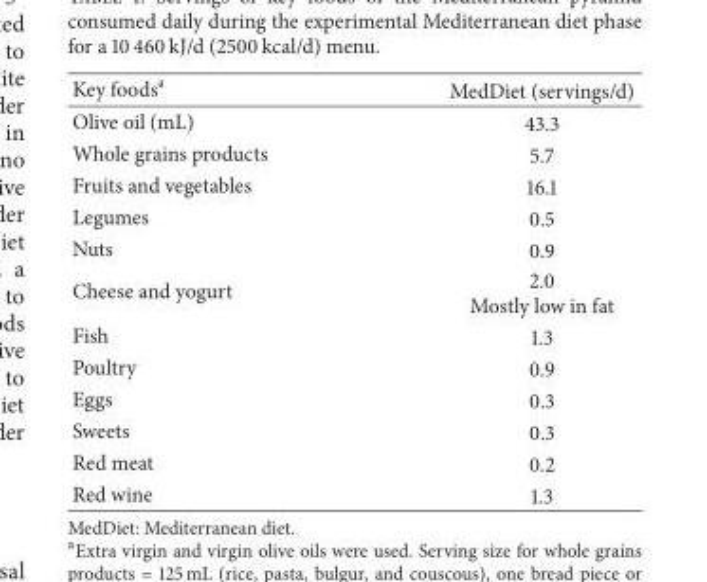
<table><thead><tr><td>Key foods<sup>a</sup></td><td>MedDiet (servings/d)</td></tr></thead><tbody><tr><td>Olive oil (mL)</td><td>43.3</td></tr><tr><td>Whole grains products</td><td>5.7</td></tr><tr><td>Fruits and vegetables</td><td>16.1</td></tr><tr><td>Legumes</td><td>0.5</td></tr><tr><td>Nuts</td><td>0.9</td></tr><tr><td>Cheese and yogurt</td><td>2.0 Mostly low in fat</td></tr><tr><td>Fish</td><td>1.3</td></tr><tr><td>Poultry</td><td>0.9</td></tr><tr><td>Eggs</td><td>0.3</td></tr><tr><td>Sweets</td><td>0.3</td></tr><tr><td>Red meat</td><td>0.2</td></tr><tr><td>Red wine</td><td>1.3</td></tr></tbody></table>